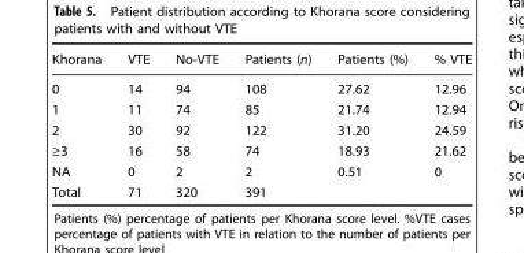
<table><thead><tr><td>Khorana</td><td>VTE</td><td>No-VTE</td><td>Patients (n)</td><td>Patients (%)</td><td>% VTE</td></tr></thead><tbody><tr><td>0</td><td>14</td><td>94</td><td>108</td><td>27.62</td><td>12.96</td></tr><tr><td>1</td><td>11</td><td>74</td><td>85</td><td>21.74</td><td>12.94</td></tr><tr><td>2</td><td>30</td><td>92</td><td>122</td><td>31.20</td><td>24.59</td></tr><tr><td>≥3</td><td>16</td><td>58</td><td>74</td><td>18.93</td><td>21.62</td></tr><tr><td>NA</td><td>0</td><td>2</td><td>2</td><td>0.51</td><td>0</td></tr><tr><td>Total</td><td>71</td><td>320</td><td>391</td><td></td><td></td></tr></tbody></table>